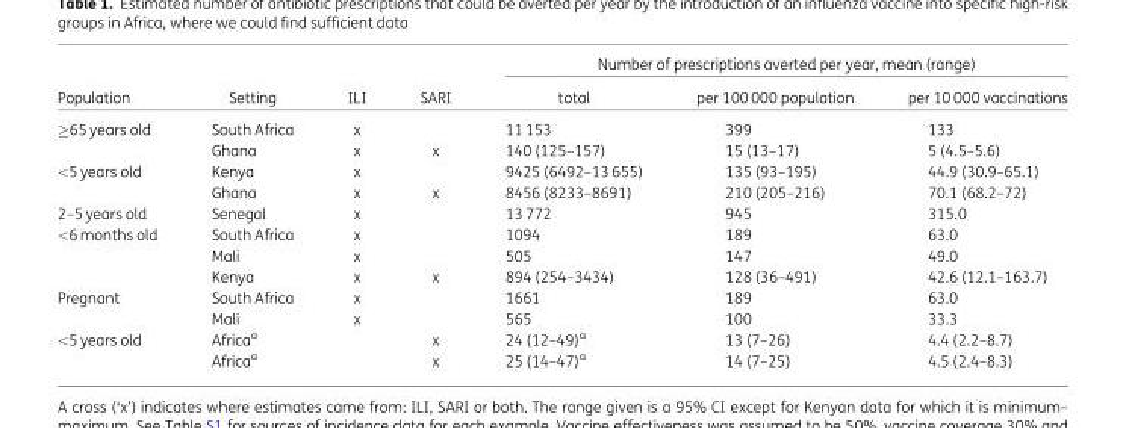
<table><thead><tr><td rowspan="2">Population</td><td rowspan="2">Setting</td><td rowspan="2">ILI</td><td rowspan="2">SARI</td><td colspan="3">Number of prescriptions averted per year, mean (range)</td></tr><tr><td>total</td><td>per 100 000 population</td><td>per 10 000 vaccinations</td></tr></thead><tbody><tr><td rowspan="2">≥65 years old</td><td>South Africa</td><td>x</td><td></td><td>11 153</td><td>399</td><td>133</td></tr><tr><td>Ghana</td><td>x</td><td>x</td><td>140 (125–157)</td><td>15 (13–17)</td><td>5 (4.5–5.6)</td></tr><tr><td rowspan="2">&lt;5 years old</td><td>Kenya</td><td>x</td><td></td><td>9425 (6492–13 655)</td><td>135 (93–195)</td><td>44.9 (30.9–65.1)</td></tr><tr><td>Ghana</td><td>x</td><td>x</td><td>8456 (8233–8691)</td><td>210 (205–216)</td><td>70.1 (68.2–72)</td></tr><tr><td>2–5 years old</td><td>Senegal</td><td>x</td><td></td><td>13 772</td><td>945</td><td>315.0</td></tr><tr><td rowspan="3">&lt;6 months old</td><td>South Africa</td><td>x</td><td></td><td>1094</td><td>189</td><td>63.0</td></tr><tr><td>Mali</td><td>x</td><td></td><td>505</td><td>147</td><td>49.0</td></tr><tr><td>Kenya</td><td>x</td><td>x</td><td>894 (254–3434)</td><td>128 (36–491)</td><td>42.6 (12.1–163.7)</td></tr><tr><td rowspan="2">Pregnant</td><td>South Africa</td><td>x</td><td></td><td>1661</td><td>189</td><td>63.0</td></tr><tr><td>Mali</td><td>x</td><td></td><td>565</td><td>100</td><td>33.3</td></tr><tr><td rowspan="2">&lt;5 years old</td><td>Africa<sup>a</sup></td><td></td><td>x</td><td>24 (12–49)<sup>a</sup></td><td>13 (7–26)</td><td>4.4 (2.2–8.7)</td></tr><tr><td>Africa<sup>a</sup></td><td></td><td>x</td><td>25 (14–47)<sup>a</sup></td><td>14 (7–25)</td><td>4.5 (2.4–8.3)</td></tr></tbody></table>